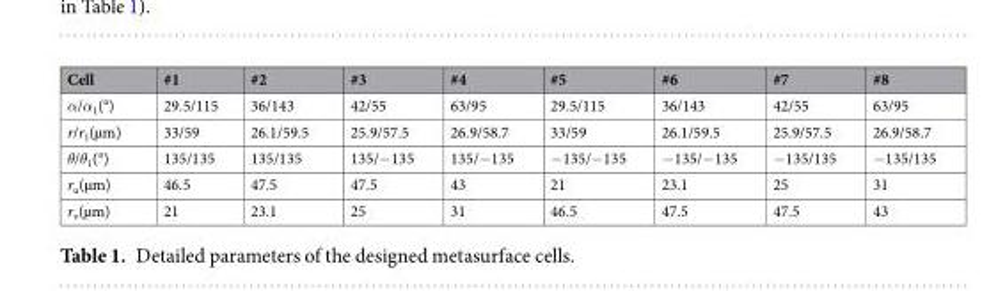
<table><thead><tr><td>Cell</td><td>#1</td><td>#2</td><td>#3</td><td>#4</td><td>#5</td><td>#6</td><td>#7</td><td>#8</td></tr></thead><tbody><tr><td>α/α<sub>1</sub>(°)</td><td>29.5/115</td><td>36/143</td><td>42/55</td><td>63/95</td><td>29.5/115</td><td>36/143</td><td>42/55</td><td>63/95</td></tr><tr><td>r/r<sub>1</sub>(µm)</td><td>33/59</td><td>26.1/59.5</td><td>25.9/57.5</td><td>26.9/58.7</td><td>33/59</td><td>26.1/59.5</td><td>25.9/57.5</td><td>26.9/58.7</td></tr><tr><td>θ/θ<sub>1</sub>(°)</td><td>135/135</td><td>135/135</td><td>135/−135</td><td>135/−135</td><td>−135/−135</td><td>−135/−135</td><td>−135/135</td><td>−135/135</td></tr><tr><td>r<sub>u</sub>(µm)</td><td>46.5</td><td>47.5</td><td>47.5</td><td>43</td><td>21</td><td>23.1</td><td>25</td><td>31</td></tr><tr><td>r<sub>v</sub>(µm)</td><td>21</td><td>23.1</td><td>25</td><td>31</td><td>46.5</td><td>47.5</td><td>47.5</td><td>43</td></tr></tbody></table>